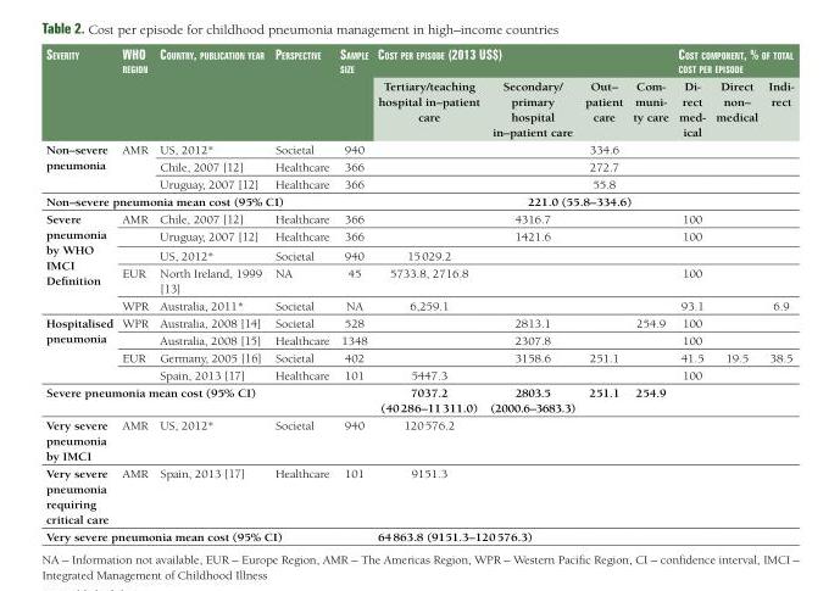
<table><thead><tr><td rowspan="2">Severity</td><td rowspan="2">WHO regiOn</td><td rowspan="2">COuntry, publiCatiOn year</td><td rowspan="2">perSpeCtive</td><td rowspan="2">Sample Size</td><td colspan="4">COSt per epiSOde (2013 uS$)</td><td colspan="3">COSt COmpOnent, % Of tOtal COSt per epiSOde</td></tr><tr><td>Tertiary/teaching hospital in–patient care</td><td>Secondary/ primary hospital in–patient care</td><td>Out– patient care</td><td>Com- muni- ty care</td><td>Di- rect med- ical</td><td>Direct non– medical</td><td>Indi- rect</td></tr></thead><tbody><tr><td rowspan="3">Non–severe pneumonia</td><td rowspan="3">AMR</td><td>US, 2012*</td><td>Societal</td><td>940</td><td></td><td></td><td>334.6</td><td></td><td></td><td></td><td></td></tr><tr><td>Chile, 2007 [12]</td><td>Healthcare</td><td>366</td><td></td><td></td><td>272.7</td><td></td><td></td><td></td><td></td></tr><tr><td>Uruguay, 2007 [12]</td><td>Healthcare</td><td>366</td><td></td><td></td><td>55.8</td><td></td><td></td><td></td><td></td></tr><tr><td colspan="5">Non–severe pneumonia mean cost (95% CI)</td><td></td><td colspan="3">221.0 (55.8–334.6)</td><td></td><td></td><td></td></tr><tr><td rowspan="5">Severe pneumonia by WHO IMCI Definition</td><td>AMR</td><td>Chile, 2007 [12]</td><td>Healthcare</td><td>366</td><td></td><td>4316.7</td><td></td><td></td><td>100</td><td></td><td></td></tr><tr><td></td><td>Uruguay, 2007 [12]</td><td>Healthcare</td><td>366</td><td></td><td>1421.6</td><td></td><td></td><td>100</td><td></td><td></td></tr><tr><td></td><td>US, 2012*</td><td>Societal</td><td>940</td><td>15 029.2</td><td></td><td></td><td></td><td></td><td></td><td></td></tr><tr><td>EUR</td><td>North Ireland, 1999 [13]</td><td>NA</td><td>45</td><td>5733.8, 2716.8</td><td></td><td></td><td></td><td>100</td><td></td><td></td></tr><tr><td>WPR</td><td>Australia, 2011*</td><td>Societal</td><td>NA</td><td>6,259.1</td><td></td><td></td><td></td><td>93.1</td><td></td><td>6.9</td></tr><tr><td rowspan="4">Hospitalised pneumonia</td><td>WPR</td><td>Australia, 2008 [14]</td><td>Societal</td><td>528</td><td></td><td>2813.1</td><td></td><td>254.9</td><td>100</td><td></td><td></td></tr><tr><td></td><td>Australia, 2008 [15]</td><td>Healthcare</td><td>1348</td><td></td><td>2307.8</td><td></td><td></td><td>100</td><td></td><td></td></tr><tr><td>EUR</td><td>Germany, 2005 [16]</td><td>Societal</td><td>402</td><td></td><td>3158.6</td><td>251.1</td><td></td><td>41.5</td><td>19.5</td><td>38.5</td></tr><tr><td></td><td>Spain, 2013 [17]</td><td>Healthcare</td><td>101</td><td>5447.3</td><td></td><td></td><td></td><td>100</td><td></td><td></td></tr><tr><td colspan="5">Severe pneumonia mean cost (95% CI)</td><td>7037.2 (40 286–11 311.0)</td><td>2803.5 (2000.6–3683.3)</td><td>251.1</td><td>254.9</td><td></td><td></td><td></td></tr><tr><td>Very severe pneumonia by IMCI</td><td>AMR</td><td>US, 2012*</td><td>Societal</td><td>940</td><td>120 576.2</td><td></td><td></td><td></td><td></td><td></td><td></td></tr><tr><td>Very severe pneumonia requiring critical care</td><td>AMR</td><td>Spain, 2013 [17]</td><td>Healthcare</td><td>101</td><td>9151.3</td><td></td><td></td><td></td><td></td><td></td><td></td></tr><tr><td colspan="5">Very severe pneumonia mean cost (95% CI)</td><td colspan="3">64 863.8 (9151.3–120 576.3)</td><td></td><td></td><td></td><td></td></tr></tbody></table>